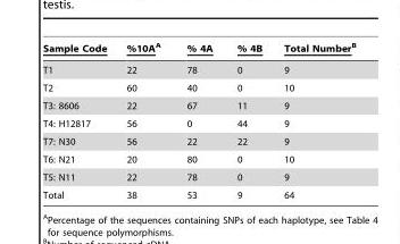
<table><thead><tr><td>Sample Code</td><td>%10AA</td><td>% 4A</td><td>% 4B</td><td>Total NumberB</td></tr></thead><tbody><tr><td>T1</td><td>22</td><td>78</td><td>0</td><td>9</td></tr><tr><td>T2</td><td>60</td><td>40</td><td>0</td><td>10</td></tr><tr><td>T3: 8606</td><td>22</td><td>67</td><td>11</td><td>9</td></tr><tr><td>T4: H12817</td><td>56</td><td>0</td><td>44</td><td>9</td></tr><tr><td>T7: N30</td><td>56</td><td>22</td><td>22</td><td>9</td></tr><tr><td>T6: N21</td><td>20</td><td>80</td><td>0</td><td>10</td></tr><tr><td>T5: N11</td><td>22</td><td>78</td><td>0</td><td>9</td></tr><tr><td>Total</td><td>38</td><td>53</td><td>9</td><td>64</td></tr></tbody></table>